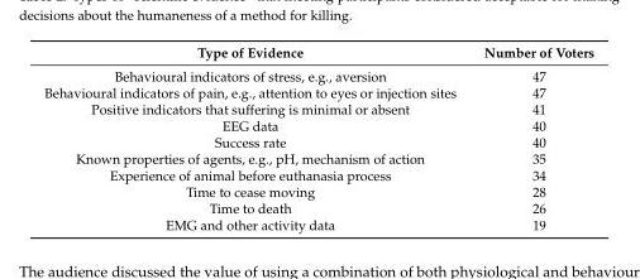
<table><thead><tr><td>Type of Evidence</td><td>Number of Voters</td></tr></thead><tbody><tr><td>Behavioural indicators of stress, e.g., aversion</td><td>47</td></tr><tr><td>Behavioural indicators of pain, e.g., attention to eyes or injection sites</td><td>47</td></tr><tr><td>Positive indicators that suffering is minimal or absent</td><td>41</td></tr><tr><td>EEG data</td><td>40</td></tr><tr><td>Success rate</td><td>40</td></tr><tr><td>Known properties of agents, e.g., pH, mechanism of action</td><td>35</td></tr><tr><td>Experience of animal before euthanasia process</td><td>34</td></tr><tr><td>Time to cease moving</td><td>28</td></tr><tr><td>Time to death</td><td>26</td></tr><tr><td>EMG and other activity data</td><td>19</td></tr></tbody></table>